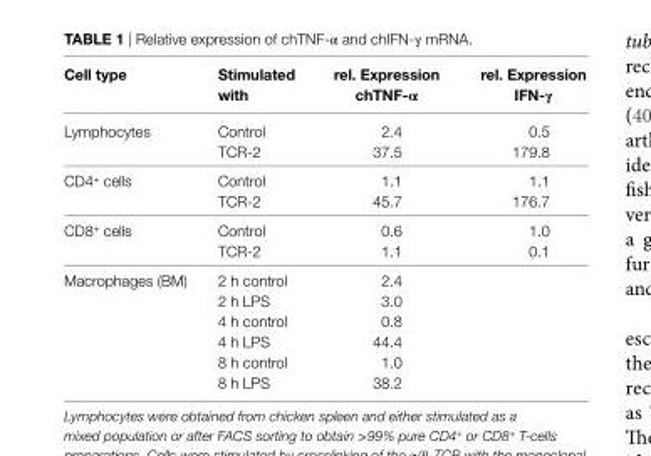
<table><thead><tr><td>cell type</td><td>stimulated with</td><td>rel. expression chTnF-α</td><td>rel. expression iFn-γ</td></tr></thead><tbody><tr><td rowspan="2">Lymphocytes</td><td>Control</td><td>2.4</td><td>0.5</td></tr><tr><td>TCR-2</td><td>37.5</td><td>179.8</td></tr><tr><td rowspan="2">CD4<sup>+</sup> cells</td><td>Control</td><td>1.1</td><td>1.1</td></tr><tr><td>TCR-2</td><td>45.7</td><td>176.7</td></tr><tr><td rowspan="2">CD8<sup>+</sup> cells</td><td>Control</td><td>0.6</td><td>1.0</td></tr><tr><td>TCR-2</td><td>1.1</td><td>0.1</td></tr><tr><td rowspan="6">Macrophages (BM)</td><td>2 h control</td><td>2.4</td><td></td></tr><tr><td>2 h LPS</td><td>3.0</td><td></td></tr><tr><td>4 h control</td><td>0.8</td><td></td></tr><tr><td>4 h LPS</td><td>44.4</td><td></td></tr><tr><td>8 h control</td><td>1.0</td><td></td></tr><tr><td>8 h LPS</td><td>38.2</td><td></td></tr></tbody></table>